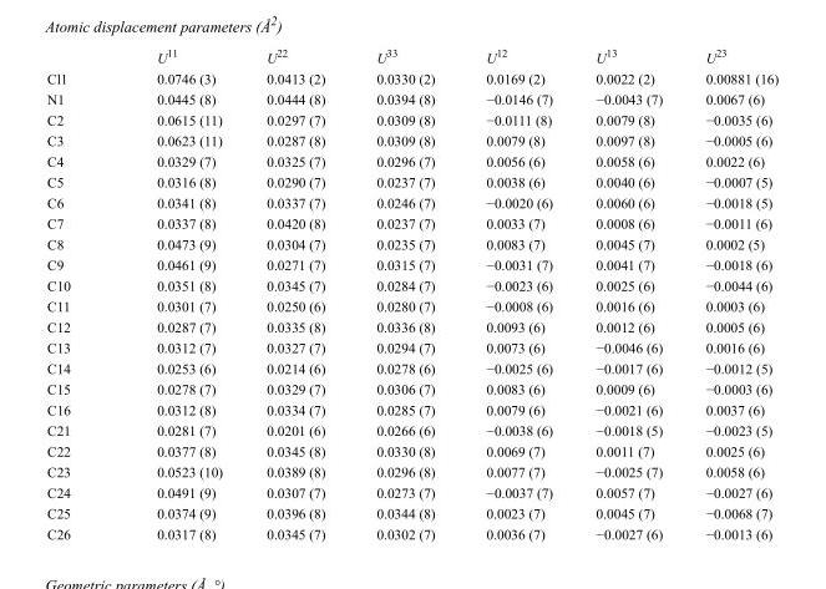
<table><thead><tr><td></td><td>U<sup>11</sup></td><td>U<sup>22</sup></td><td>U<sup>33</sup></td><td>U<sup>12</sup></td><td>U<sup>13</sup></td><td>U<sup>23</sup></td></tr></thead><tbody><tr><td>Cl1</td><td>0.0746 (3)</td><td>0.0413 (2)</td><td>0.0330 (2)</td><td>0.0169 (2)</td><td>0.0022 (2)</td><td>0.00881 (16)</td></tr><tr><td>N1</td><td>0.0445 (8)</td><td>0.0444 (8)</td><td>0.0394 (8)</td><td>−0.0146 (7)</td><td>−0.0043 (7)</td><td>0.0067 (6)</td></tr><tr><td>C2</td><td>0.0615 (11)</td><td>0.0297 (7)</td><td>0.0309 (8)</td><td>−0.0111 (8)</td><td>0.0079 (8)</td><td>−0.0035 (6)</td></tr><tr><td>C3</td><td>0.0623 (11)</td><td>0.0287 (8)</td><td>0.0309 (8)</td><td>0.0079 (8)</td><td>0.0097 (8)</td><td>−0.0005 (6)</td></tr><tr><td>C4</td><td>0.0329 (7)</td><td>0.0325 (7)</td><td>0.0296 (7)</td><td>0.0056 (6)</td><td>0.0058 (6)</td><td>0.0022 (6)</td></tr><tr><td>C5</td><td>0.0316 (8)</td><td>0.0290 (7)</td><td>0.0237 (7)</td><td>0.0038 (6)</td><td>0.0040 (6)</td><td>−0.0007 (5)</td></tr><tr><td>C6</td><td>0.0341 (8)</td><td>0.0337 (7)</td><td>0.0246 (7)</td><td>−0.0020 (6)</td><td>0.0060 (6)</td><td>−0.0018 (5)</td></tr><tr><td>C7</td><td>0.0337 (8)</td><td>0.0420 (8)</td><td>0.0237 (7)</td><td>0.0033 (7)</td><td>0.0008 (6)</td><td>−0.0011 (6)</td></tr><tr><td>C8</td><td>0.0473 (9)</td><td>0.0304 (7)</td><td>0.0235 (7)</td><td>0.0083 (7)</td><td>0.0045 (7)</td><td>0.0002 (5)</td></tr><tr><td>C9</td><td>0.0461 (9)</td><td>0.0271 (7)</td><td>0.0315 (7)</td><td>−0.0031 (7)</td><td>0.0041 (7)</td><td>−0.0018 (6)</td></tr><tr><td>C10</td><td>0.0351 (8)</td><td>0.0345 (7)</td><td>0.0284 (7)</td><td>−0.0023 (6)</td><td>0.0025 (6)</td><td>−0.0044 (6)</td></tr><tr><td>C11</td><td>0.0301 (7)</td><td>0.0250 (6)</td><td>0.0280 (7)</td><td>−0.0008 (6)</td><td>0.0016 (6)</td><td>0.0003 (6)</td></tr><tr><td>C12</td><td>0.0287 (7)</td><td>0.0335 (8)</td><td>0.0336 (8)</td><td>0.0093 (6)</td><td>0.0012 (6)</td><td>0.0005 (6)</td></tr><tr><td>C13</td><td>0.0312 (7)</td><td>0.0327 (7)</td><td>0.0294 (7)</td><td>0.0073 (6)</td><td>−0.0046 (6)</td><td>0.0016 (6)</td></tr><tr><td>C14</td><td>0.0253 (6)</td><td>0.0214 (6)</td><td>0.0278 (6)</td><td>−0.0025 (6)</td><td>−0.0017 (6)</td><td>−0.0012 (5)</td></tr><tr><td>C15</td><td>0.0278 (7)</td><td>0.0329 (7)</td><td>0.0306 (7)</td><td>0.0083 (6)</td><td>0.0009 (6)</td><td>−0.0003 (6)</td></tr><tr><td>C16</td><td>0.0312 (8)</td><td>0.0334 (7)</td><td>0.0285 (7)</td><td>0.0079 (6)</td><td>−0.0021 (6)</td><td>0.0037 (6)</td></tr><tr><td>C21</td><td>0.0281 (7)</td><td>0.0201 (6)</td><td>0.0266 (6)</td><td>−0.0038 (6)</td><td>−0.0018 (5)</td><td>−0.0023 (5)</td></tr><tr><td>C22</td><td>0.0377 (8)</td><td>0.0345 (8)</td><td>0.0330 (8)</td><td>0.0069 (7)</td><td>0.0011 (7)</td><td>0.0025 (6)</td></tr><tr><td>C23</td><td>0.0523 (10)</td><td>0.0389 (8)</td><td>0.0296 (8)</td><td>0.0077 (7)</td><td>−0.0025 (7)</td><td>0.0058 (6)</td></tr><tr><td>C24</td><td>0.0491 (9)</td><td>0.0307 (7)</td><td>0.0273 (7)</td><td>−0.0037 (7)</td><td>0.0057 (7)</td><td>−0.0027 (6)</td></tr><tr><td>C25</td><td>0.0374 (9)</td><td>0.0396 (8)</td><td>0.0344 (8)</td><td>0.0023 (7)</td><td>0.0045 (7)</td><td>−0.0068 (7)</td></tr><tr><td>C26</td><td>0.0317 (8)</td><td>0.0345 (7)</td><td>0.0302 (7)</td><td>0.0036 (7)</td><td>−0.0027 (6)</td><td>−0.0013 (6)</td></tr></tbody></table>